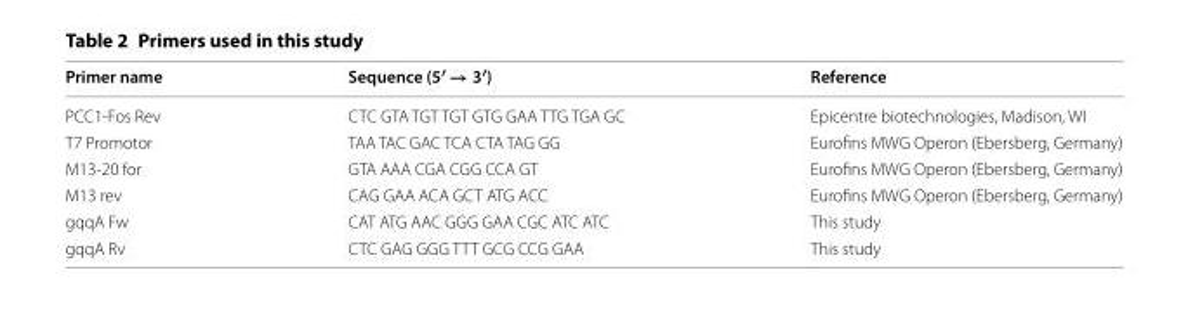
<table><thead><tr><td>Primer name</td><td>Sequence (5′ → 3′)</td><td>Reference</td></tr></thead><tbody><tr><td>PCC1-Fos Rev</td><td>CTC GTA TGT TGT GTG GAA TTG TGA GC</td><td>Epicentre biotechnologies, Madison, WI</td></tr><tr><td>T7 Promotor</td><td>TAA TAC GAC TCA CTA TAG GG</td><td>Eurofins MWG Operon (Ebersberg, Germany)</td></tr><tr><td>M13-20 for</td><td>GTA AAA CGA CGG CCA GT</td><td>Eurofins MWG Operon (Ebersberg, Germany)</td></tr><tr><td>M13 rev</td><td>CAG GAA ACA GCT ATG ACC</td><td>Eurofins MWG Operon (Ebersberg, Germany)</td></tr><tr><td>gqqA Fw</td><td>CAT ATG AAC GGG GAA CGC ATC ATC</td><td>This study</td></tr><tr><td>gqqA Rv</td><td>CTC GAG GGG TTT GCG CCG GAA</td><td>This study</td></tr></tbody></table>